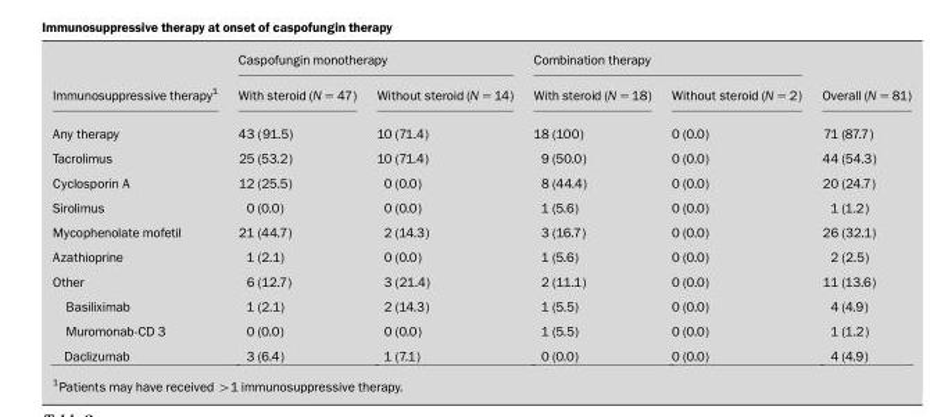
<table><thead><tr><td rowspan="2">Immunosuppressive therapy<sup>1</sup></td><td colspan="2">Caspofungin monotherapy</td><td colspan="2">Combination therapy</td><td rowspan="2">Overall (N</td></tr><tr><td>With steroid (N = 47)</td><td>Without steroid (N =14)</td><td>With steroid (N =18)</td><td>Without steroid (N = 2)</td></tr></thead><tbody><tr><td>Any therapy</td><td>43 (91.5)</td><td>10 (71.4)</td><td>18 (100)</td><td>0 (0.0)</td><td>71 (87.7)</td></tr><tr><td>Tacrolimus</td><td>25 (53.2)</td><td>10 (71.4)</td><td>9 (50.0)</td><td>0 (0.0)</td><td>44 (54.3)</td></tr><tr><td>Cyclosporin A</td><td>12 (25.5)</td><td>0 (0.0)</td><td>8 (44.4)</td><td>0 (0.0)</td><td>20 (24.7)</td></tr><tr><td>Sirolimus</td><td>0 (0.0)</td><td>0 (0.0)</td><td>1 (5.6)</td><td>0 (0.0)</td><td>1 (1.2)</td></tr><tr><td>Mycophenolate mofetil</td><td>21 (44.7)</td><td>2 (14.3)</td><td>3 (16.7)</td><td>0 (0.0)</td><td>26 (32.1)</td></tr><tr><td>Azathioprine</td><td>1 (2.1)</td><td>0 (0.0)</td><td>1 (5.6)</td><td>0 (0.0)</td><td>2 (2.5)</td></tr><tr><td>Other</td><td>6 (12.7)</td><td>3 (21.4)</td><td>2 (11.1)</td><td>0 (0.0)</td><td>11 (13.6)</td></tr><tr><td>Basiliximab</td><td>1 (2.1)</td><td>2 (14.3)</td><td>1 (5.5)</td><td>0 (0.0)</td><td>4 (4.9)</td></tr><tr><td>Muromonab-CD 3</td><td>0 (0.0)</td><td>0 (0.0)</td><td>1 (5.5)</td><td>0 (0.0)</td><td>1 (1.2)</td></tr><tr><td>Daclizumab</td><td>3 (6.4)</td><td>1 (7.1)</td><td>0 (0.0)</td><td>0 (0.0)</td><td>4 (4.9)</td></tr></tbody></table>